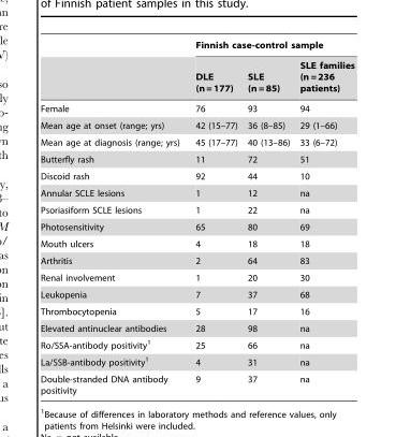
<table><thead><tr><td rowspan="2"></td><td colspan="3">Finnish case-control sample</td></tr><tr><td>DLE (n = 177)</td><td>SLE (n = 85)</td><td>SLE families (n = 236 patients)</td></tr></thead><tbody><tr><td>Female</td><td>76</td><td>93</td><td>94</td></tr><tr><td>Mean age at onset (range; yrs)</td><td>42 (15–77)</td><td>36 (8–85)</td><td>29 (1–66)</td></tr><tr><td>Mean age at diagnosis (range; yrs)</td><td>45 (17–77)</td><td>40 (13–86)</td><td>33 (6–72)</td></tr><tr><td>Butterfly rash</td><td>11</td><td>72</td><td>51</td></tr><tr><td>Discoid rash</td><td>92</td><td>44</td><td>10</td></tr><tr><td>Annular SCLE lesions</td><td>1</td><td>12</td><td>na</td></tr><tr><td>Psoriasiform SCLE lesions</td><td>1</td><td>22</td><td>na</td></tr><tr><td>Photosensitivity</td><td>65</td><td>80</td><td>69</td></tr><tr><td>Mouth ulcers</td><td>4</td><td>18</td><td>18</td></tr><tr><td>Arthritis</td><td>2</td><td>64</td><td>83</td></tr><tr><td>Renal involvement</td><td>1</td><td>20</td><td>30</td></tr><tr><td>Leukopenia</td><td>7</td><td>37</td><td>68</td></tr><tr><td>Thrombocytopenia</td><td>5</td><td>17</td><td>16</td></tr><tr><td>Elevated antinuclear antibodies</td><td>28</td><td>98</td><td>na</td></tr><tr><td>Ro/SSA-antibody positivity<sup>1</sup></td><td>25</td><td>66</td><td>na</td></tr><tr><td>La/SSB-antibody positivity<sup>1</sup></td><td>4</td><td>31</td><td>na</td></tr><tr><td>Double-stranded DNA antibody positivity</td><td>9</td><td>37</td><td>na</td></tr></tbody></table>